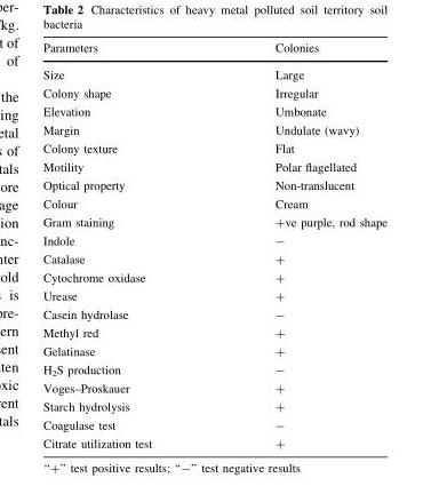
<table><thead><tr><td>Parameters</td><td>Colonies</td></tr></thead><tbody><tr><td>Size</td><td>Large</td></tr><tr><td>Colony shape</td><td>Irregular</td></tr><tr><td>Elevation</td><td>Umbonate</td></tr><tr><td>Margin</td><td>Undulate (wavy)</td></tr><tr><td>Colony texture</td><td>Flat</td></tr><tr><td>Motility</td><td>Polar flagellated</td></tr><tr><td>Optical property</td><td>Non-translucent</td></tr><tr><td>Colour</td><td>Cream</td></tr><tr><td>Gram staining</td><td>+ve purple, rod shape</td></tr><tr><td>Indole</td><td>-</td></tr><tr><td>Catalase</td><td>+</td></tr><tr><td>Cytochrome oxidase</td><td>+</td></tr><tr><td>Urease</td><td>+</td></tr><tr><td>Casein hydrolase</td><td>-</td></tr><tr><td>Methyl red</td><td>+</td></tr><tr><td>Gelatinase</td><td>+</td></tr><tr><td>H<sub>2</sub>S production</td><td>-</td></tr><tr><td>Voges–Proskauer</td><td>+</td></tr><tr><td>Starch hydrolysis</td><td>+</td></tr><tr><td>Coagulase test</td><td>-</td></tr><tr><td>Citrate utilization test</td><td>+</td></tr></tbody></table>